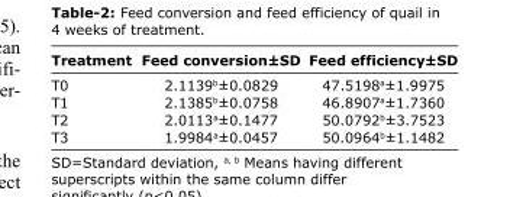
<table><thead><tr><td>Treatment</td><td>Feed conversion±SD</td><td>Feed efficiency±SD</td></tr></thead><tbody><tr><td>T0</td><td>2.1139<sup>b</sup>±0.0829</td><td>47.5198<sup>a</sup>±1.9975</td></tr><tr><td>T1</td><td>2.1385<sup>b</sup>±0.0758</td><td>46.8907<sup>a</sup>±1.7360</td></tr><tr><td>T2</td><td>2.0113<sup>a</sup>±0.1477</td><td>50.0792<sup>b</sup>±3.7523</td></tr><tr><td>T3</td><td>1.9984<sup>a</sup>±0.0457</td><td>50.0964<sup>b</sup>±1.1482</td></tr></tbody></table>